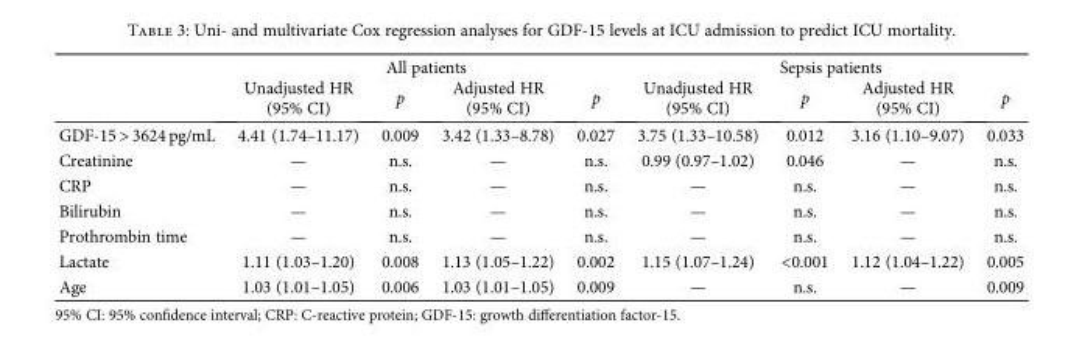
<table><thead><tr><td rowspan="2"></td><td colspan="4">All patients</td><td colspan="4">Sepsis patients</td></tr><tr><td>Unadjusted HR (95% CI)</td><td>p</td><td>Adjusted HR (95% CI)</td><td>p</td><td>Unadjusted HR (95% CI)</td><td>p</td><td>Adjusted HR (95% CI)</td><td>p</td></tr></thead><tbody><tr><td>GDF-15 &gt; 3624 pg/mL</td><td>4.41 (1.74–11.17)</td><td>0.009</td><td>3.42 (1.33–8.78)</td><td>0.027</td><td>3.75 (1.33–10.58)</td><td>0.012</td><td>3.16 (1.10–9.07)</td><td>0.033</td></tr><tr><td>Creatinine</td><td>—</td><td>n.s.</td><td>—</td><td>n.s.</td><td>0.99 (0.97–1.02)</td><td>0.046</td><td>—</td><td>n.s.</td></tr><tr><td>CRP</td><td>—</td><td>n.s.</td><td>—</td><td>n.s.</td><td>—</td><td>n.s.</td><td>—</td><td>n.s.</td></tr><tr><td>Bilirubin</td><td>—</td><td>n.s.</td><td>—</td><td>n.s.</td><td>—</td><td>n.s.</td><td>—</td><td>n.s.</td></tr><tr><td>Prothrombin time</td><td>—</td><td>n.s.</td><td>—</td><td>n.s.</td><td>—</td><td>n.s.</td><td>—</td><td>n.s.</td></tr><tr><td>Lactate</td><td>1.11 (1.03–1.20)</td><td>0.008</td><td>1.13 (1.05–1.22)</td><td>0.002</td><td>1.15 (1.07–1.24)</td><td>&lt;0.001</td><td>1.12 (1.04–1.22)</td><td>0.005</td></tr><tr><td>Age</td><td>1.03 (1.01–1.05)</td><td>0.006</td><td>1.03 (1.01–1.05)</td><td>0.009</td><td>—</td><td>n.s.</td><td>—</td><td>0.009</td></tr></tbody></table>